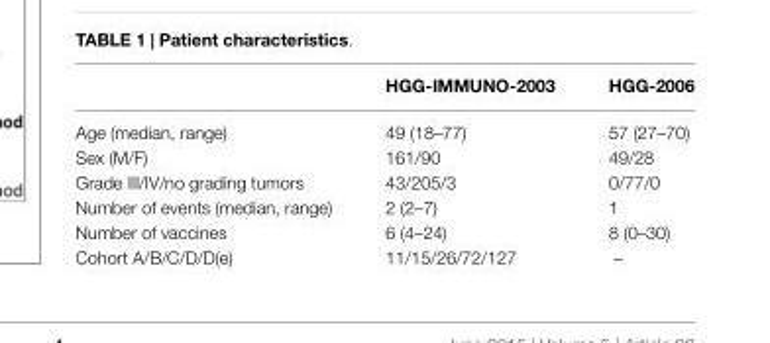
<table><thead><tr><td></td><td>HGG-IMMUNO-2003</td><td>HGG-2006</td></tr></thead><tbody><tr><td>Age (median, range)</td><td>49 (18–77)</td><td>57 (27–70)</td></tr><tr><td>Sex (M/F)</td><td>161/90</td><td>49/28</td></tr><tr><td>Grade III/IV/no grading tumors</td><td>43/205/3</td><td>0/77/0</td></tr><tr><td>Number of events (median, range)</td><td>2 (2–7)</td><td>1</td></tr><tr><td>Number of vaccines</td><td>6 (4–24)</td><td>8 (0–30)</td></tr><tr><td>Cohort A/B/C/D/D(e)</td><td>11/15/26/72/127</td><td>–</td></tr></tbody></table>